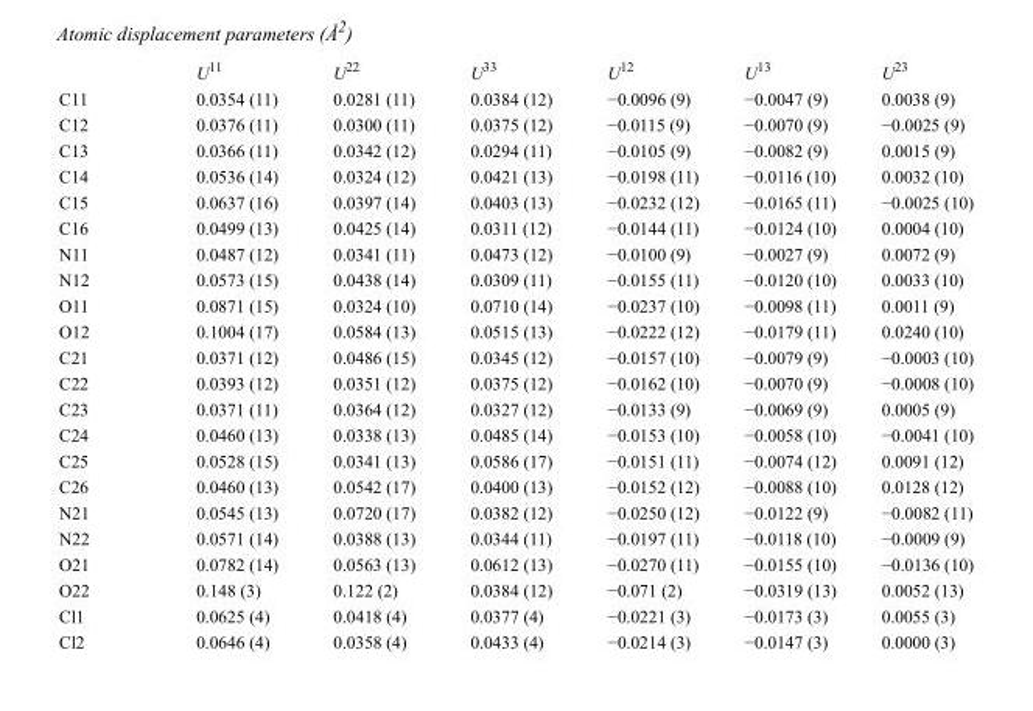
<table><thead><tr><td></td><td>U<sup>11</sup></td><td>U<sup>22</sup></td><td>U<sup>33</sup></td><td>U<sup>12</sup></td><td>U<sup>13</sup></td><td>U<sup>23</sup></td></tr></thead><tbody><tr><td>C11</td><td>0.0354 (11)</td><td>0.0281 (11)</td><td>0.0384 (12)</td><td>−0.0096 (9)</td><td>−0.0047 (9)</td><td>0.0038 (9)</td></tr><tr><td>C12</td><td>0.0376 (11)</td><td>0.0300 (11)</td><td>0.0375 (12)</td><td>−0.0115 (9)</td><td>−0.0070 (9)</td><td>−0.0025 (9)</td></tr><tr><td>C13</td><td>0.0366 (11)</td><td>0.0342 (12)</td><td>0.0294 (11)</td><td>−0.0105 (9)</td><td>−0.0082 (9)</td><td>0.0015 (9)</td></tr><tr><td>C14</td><td>0.0536 (14)</td><td>0.0324 (12)</td><td>0.0421 (13)</td><td>−0.0198 (11)</td><td>−0.0116 (10)</td><td>0.0032 (10)</td></tr><tr><td>C15</td><td>0.0637 (16)</td><td>0.0397 (14)</td><td>0.0403 (13)</td><td>−0.0232 (12)</td><td>−0.0165 (11)</td><td>−0.0025 (10)</td></tr><tr><td>C16</td><td>0.0499 (13)</td><td>0.0425 (14)</td><td>0.0311 (12)</td><td>−0.0144 (11)</td><td>−0.0124 (10)</td><td>0.0004 (10)</td></tr><tr><td>N11</td><td>0.0487 (12)</td><td>0.0341 (11)</td><td>0.0473 (12)</td><td>−0.0100 (9)</td><td>−0.0027 (9)</td><td>0.0072 (9)</td></tr><tr><td>N12</td><td>0.0573 (15)</td><td>0.0438 (14)</td><td>0.0309 (11)</td><td>−0.0155 (11)</td><td>−0.0120 (10)</td><td>0.0033 (10)</td></tr><tr><td>O11</td><td>0.0871 (15)</td><td>0.0324 (10)</td><td>0.0710 (14)</td><td>−0.0237 (10)</td><td>−0.0098 (11)</td><td>0.0011 (9)</td></tr><tr><td>O12</td><td>0.1004 (17)</td><td>0.0584 (13)</td><td>0.0515 (13)</td><td>−0.0222 (12)</td><td>−0.0179 (11)</td><td>0.0240 (10)</td></tr><tr><td>C21</td><td>0.0371 (12)</td><td>0.0486 (15)</td><td>0.0345 (12)</td><td>−0.0157 (10)</td><td>−0.0079 (9)</td><td>−0.0003 (10)</td></tr><tr><td>C22</td><td>0.0393 (12)</td><td>0.0351 (12)</td><td>0.0375 (12)</td><td>−0.0162 (10)</td><td>−0.0070 (9)</td><td>−0.0008 (10)</td></tr><tr><td>C23</td><td>0.0371 (11)</td><td>0.0364 (12)</td><td>0.0327 (12)</td><td>−0.0133 (9)</td><td>−0.0069 (9)</td><td>0.0005 (9)</td></tr><tr><td>C24</td><td>0.0460 (13)</td><td>0.0338 (13)</td><td>0.0485 (14)</td><td>−0.0153 (10)</td><td>−0.0058 (10)</td><td>−0.0041 (10)</td></tr><tr><td>C25</td><td>0.0528 (15)</td><td>0.0341 (13)</td><td>0.0586 (17)</td><td>−0.0151 (11)</td><td>−0.0074 (12)</td><td>0.0091 (12)</td></tr><tr><td>C26</td><td>0.0460 (13)</td><td>0.0542 (17)</td><td>0.0400 (13)</td><td>−0.0152 (12)</td><td>−0.0088 (10)</td><td>0.0128 (12)</td></tr><tr><td>N21</td><td>0.0545 (13)</td><td>0.0720 (17)</td><td>0.0382 (12)</td><td>−0.0250 (12)</td><td>−0.0122 (9)</td><td>−0.0082 (11)</td></tr><tr><td>N22</td><td>0.0571 (14)</td><td>0.0388 (13)</td><td>0.0344 (11)</td><td>−0.0197 (11)</td><td>−0.0118 (10)</td><td>−0.0009 (9)</td></tr><tr><td>O21</td><td>0.0782 (14)</td><td>0.0563 (13)</td><td>0.0612 (13)</td><td>−0.0270 (11)</td><td>−0.0155 (10)</td><td>−0.0136 (10)</td></tr><tr><td>O22</td><td>0.148 (3)</td><td>0.122 (2)</td><td>0.0384 (12)</td><td>−0.071 (2)</td><td>−0.0319 (13)</td><td>0.0052 (13)</td></tr><tr><td>Cl1</td><td>0.0625 (4)</td><td>0.0418 (4)</td><td>0.0377 (4)</td><td>−0.0221 (3)</td><td>−0.0173 (3)</td><td>0.0055 (3)</td></tr><tr><td>Cl2</td><td>0.0646 (4)</td><td>0.0358 (4)</td><td>0.0433 (4)</td><td>−0.0214 (3)</td><td>−0.0147 (3)</td><td>0.0000 (3)</td></tr></tbody></table>